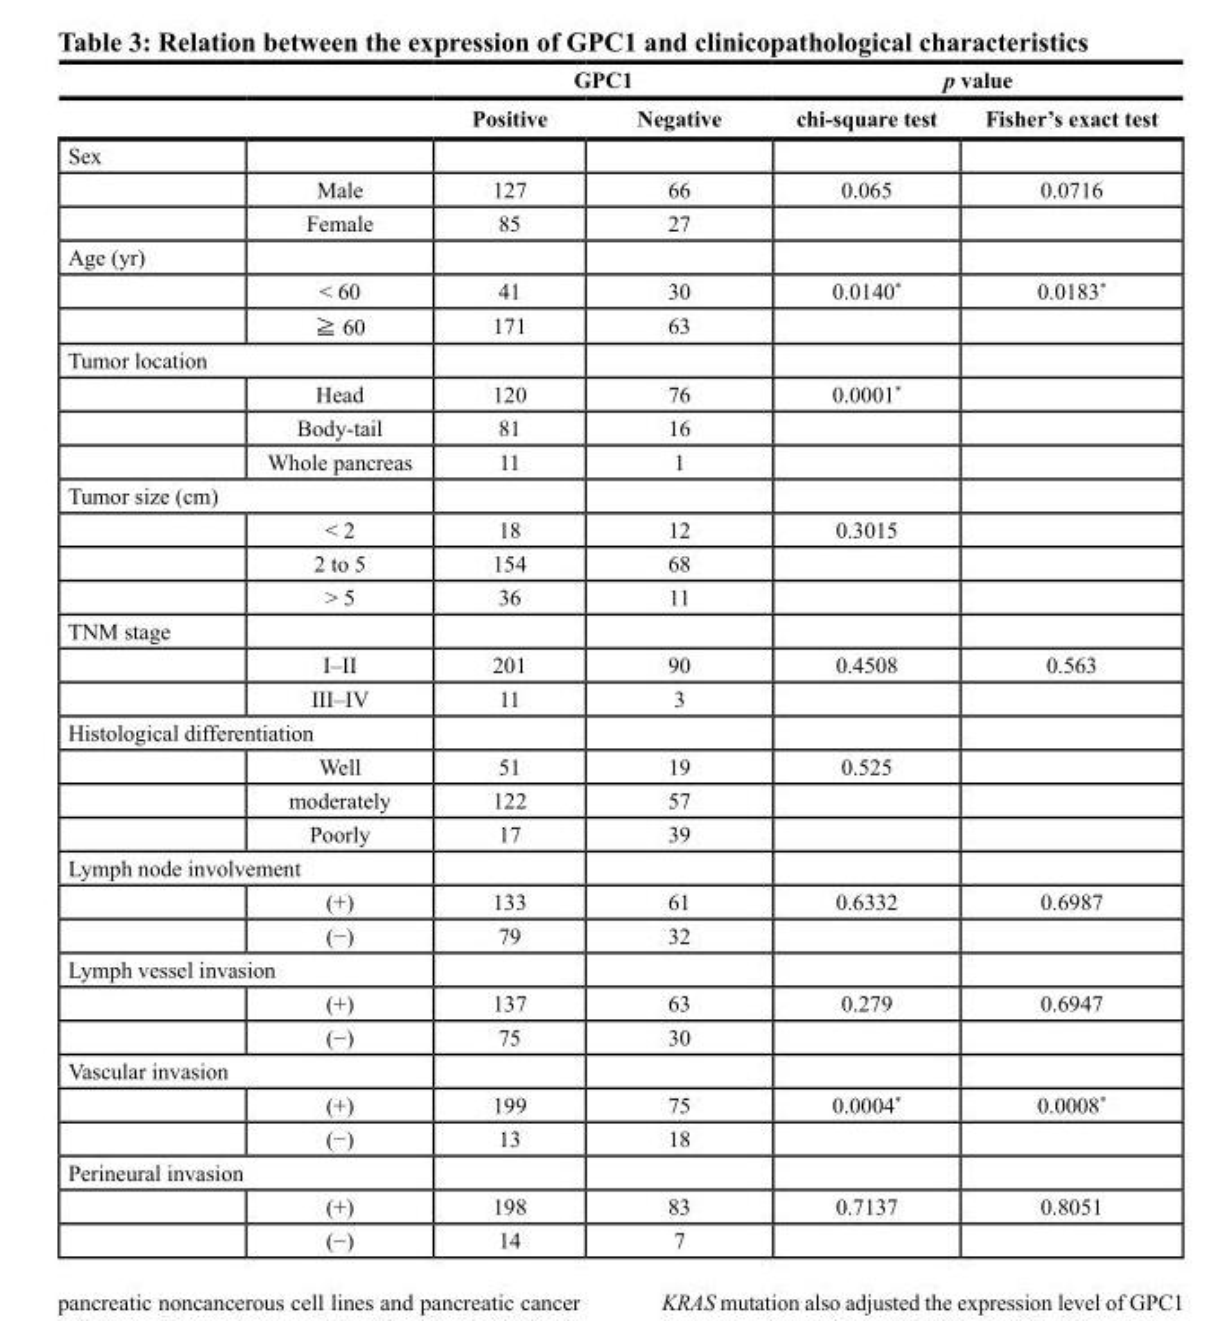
<table><thead><tr><td rowspan="2"></td><td rowspan="2"></td><td colspan="2">GPC1</td><td colspan="2">p value</td></tr><tr><td>Positive</td><td>Negative</td><td>chi-square test</td><td>Fisher’s exact test</td></tr></thead><tbody><tr><td colspan="6">Sex</td></tr><tr><td></td><td>Male</td><td>127</td><td>66</td><td>0.065</td><td>0.0716</td></tr><tr><td></td><td>Female</td><td>85</td><td>27</td><td></td><td></td></tr><tr><td colspan="6">Age (yr)</td></tr><tr><td></td><td>&lt; 60</td><td>41</td><td>30</td><td>0.0140*</td><td>0.0183*</td></tr><tr><td></td><td>≧ 60</td><td>171</td><td>63</td><td></td><td></td></tr><tr><td colspan="6">Tumor location</td></tr><tr><td></td><td>Head</td><td>120</td><td>76</td><td>0.0001*</td><td></td></tr><tr><td></td><td>Body-tail</td><td>81</td><td>16</td><td></td><td></td></tr><tr><td></td><td>Whole pancreas</td><td>11</td><td>1</td><td></td><td></td></tr><tr><td colspan="6">Tumor size (cm)</td></tr><tr><td></td><td>&lt; 2</td><td>18</td><td>12</td><td>0.3015</td><td></td></tr><tr><td></td><td>2 to 5</td><td>154</td><td>68</td><td></td><td></td></tr><tr><td></td><td>&gt; 5</td><td>36</td><td>11</td><td></td><td></td></tr><tr><td colspan="6">TNM stage</td></tr><tr><td></td><td>I–II</td><td>201</td><td>90</td><td>0.4508</td><td>0.563</td></tr><tr><td></td><td>III–IV</td><td>11</td><td>3</td><td></td><td></td></tr><tr><td colspan="6">Histological differentiation</td></tr><tr><td></td><td>Well</td><td>51</td><td>19</td><td>0.525</td><td></td></tr><tr><td></td><td>moderately</td><td>122</td><td>57</td><td></td><td></td></tr><tr><td></td><td>Poorly</td><td>17</td><td>39</td><td></td><td></td></tr><tr><td colspan="6">Lymph node involvement</td></tr><tr><td></td><td>(+)</td><td>133</td><td>61</td><td>0.6332</td><td>0.6987</td></tr><tr><td></td><td>(−)</td><td>79</td><td>32</td><td></td><td></td></tr><tr><td colspan="6">Lymph vessel invasion</td></tr><tr><td></td><td>(+)</td><td>137</td><td>63</td><td>0.279</td><td>0.6947</td></tr><tr><td></td><td>(−)</td><td>75</td><td>30</td><td></td><td></td></tr><tr><td colspan="6">Vascular invasion</td></tr><tr><td></td><td>(+)</td><td>199</td><td>75</td><td>0.0004*</td><td>0.0008*</td></tr><tr><td></td><td>(−)</td><td>13</td><td>18</td><td></td><td></td></tr><tr><td colspan="6">Perineural invasion</td></tr><tr><td></td><td>(+)</td><td>198</td><td>83</td><td>0.7137</td><td>0.8051</td></tr><tr><td></td><td>(−)</td><td>14</td><td>7</td><td></td><td></td></tr></tbody></table>